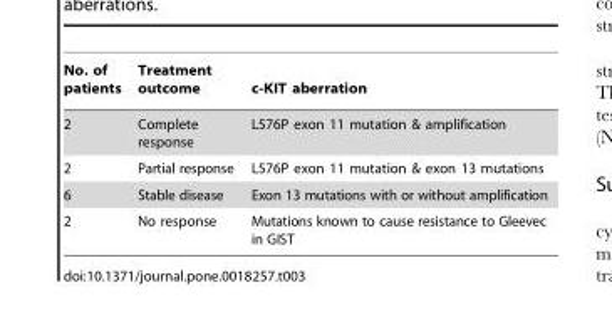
<table><thead><tr><td>No. of patients</td><td>Treatment outcome</td><td>c-KIT aberration</td></tr></thead><tbody><tr><td>2</td><td>Complete response</td><td>L576P exon 11 mutation &amp; amplification</td></tr><tr><td>2</td><td>Partial response</td><td>L576P exon 11 mutation &amp; exon 13 mutations</td></tr><tr><td>6</td><td>Stable disease</td><td>Exon 13 mutations with or without amplification</td></tr><tr><td>2</td><td>No response</td><td>Mutations known to cause resistance to Gleevec in GIST</td></tr></tbody></table>